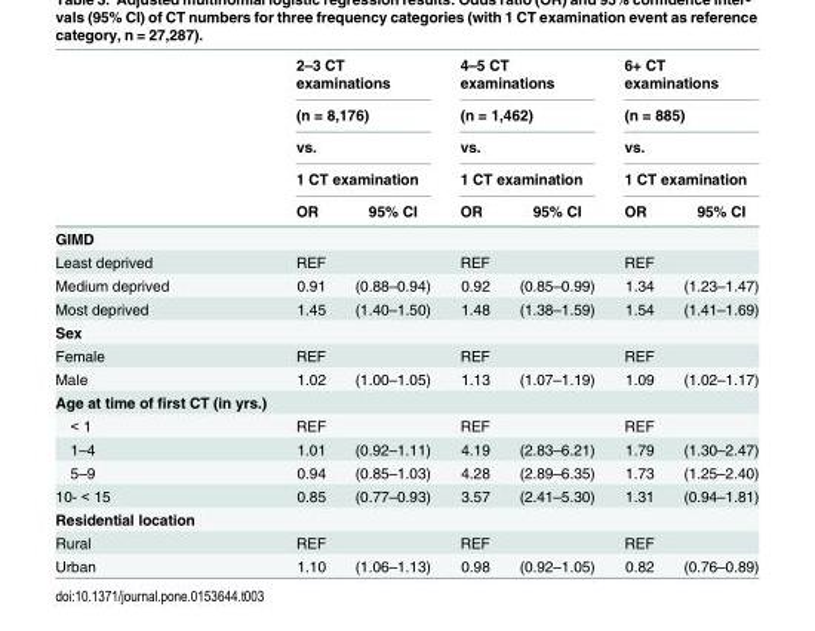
<table><thead><tr><td rowspan="5"></td><td rowspan="4" colspan="2">2–3 CT examinations (n = 8,176) vs. 1 CT examination</td><td rowspan="4" colspan="2">4–5 CT examinations (n = 1,462) vs. 1 CT examination</td><td rowspan="4" colspan="2">6+ CT examinations (n = 885) vs. 1 CT examination</td></tr><tr></tr><tr></tr><tr></tr><tr><td>OR</td><td>95% CI</td><td>OR</td><td>95% CI</td><td>OR</td><td>95% CI</td></tr></thead><tbody><tr><td colspan="7">GIMD</td></tr><tr><td>Least deprived</td><td>REF</td><td></td><td>REF</td><td></td><td>REF</td><td></td></tr><tr><td>Medium deprived</td><td>0.91</td><td>(0.88–0.94)</td><td>0.92</td><td>(0.85–0.99)</td><td>1.34</td><td>(1.23–1.47)</td></tr><tr><td>Most deprived</td><td>1.45</td><td>(1.40–1.50)</td><td>1.48</td><td>(1.38–1.59)</td><td>1.54</td><td>(1.41–1.69)</td></tr><tr><td colspan="7">Sex</td></tr><tr><td>Female</td><td>REF</td><td></td><td>REF</td><td></td><td>REF</td><td></td></tr><tr><td>Male</td><td>1.02</td><td>(1.00–1.05)</td><td>1.13</td><td>(1.07–1.19)</td><td>1.09</td><td>(1.02–1.17)</td></tr><tr><td colspan="7">Age at time of first CT (in yrs.)</td></tr><tr><td>&lt; 1</td><td>REF</td><td></td><td>REF</td><td></td><td>REF</td><td></td></tr><tr><td>1–4</td><td>1.01</td><td>(0.92–1.11)</td><td>4.19</td><td>(2.83–6.21)</td><td>1.79</td><td>(1.30–2.47)</td></tr><tr><td>5–9</td><td>0.94</td><td>(0.85–1.03)</td><td>4.28</td><td>(2.89–6.35)</td><td>1.73</td><td>(1.25–2.40)</td></tr><tr><td>10- &lt; 15</td><td>0.85</td><td>(0.77–0.93)</td><td>3.57</td><td>(2.41–5.30)</td><td>1.31</td><td>(0.94–1.81)</td></tr><tr><td colspan="7">Residential location</td></tr><tr><td>Rural</td><td>REF</td><td></td><td>REF</td><td></td><td>REF</td><td></td></tr><tr><td>Urban</td><td>1.10</td><td>(1.06–1.13)</td><td>0.98</td><td>(0.92–1.05)</td><td>0.82</td><td>(0.76–0.89)</td></tr></tbody></table>